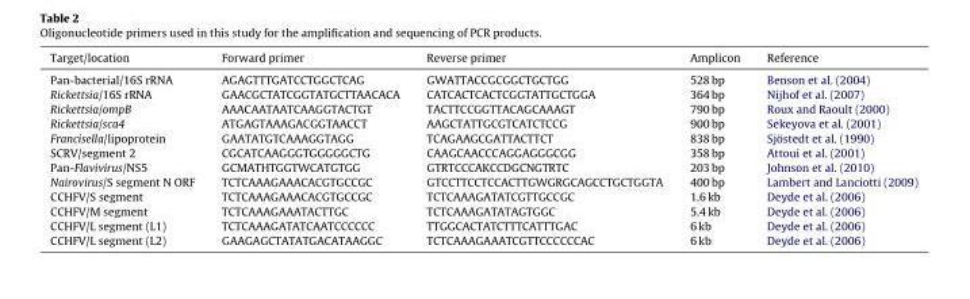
<table><thead><tr><td>Target/location</td><td>Forward primer</td><td>Reverse primer</td><td>Amplicon</td><td>Reference</td></tr></thead><tbody><tr><td>Pan-bacterial/16S rRNA</td><td>AGAGTTTGATCCTGGCTCAG</td><td>GWATTACCGCGGCTGCTGG</td><td>528 bp</td><td>Benson et al. (2004)</td></tr><tr><td>Rickettsia/16S rRNA</td><td>GAACGCTATCGGTATGCTTAACACA</td><td>CATCACTCACTCGGTATTGCTGGA</td><td>364 bp</td><td>Nijhof et al. (2007)</td></tr><tr><td>Rickettsia/ompB</td><td>AAACAATAATCAAGGTACTGT</td><td>TACTTCCGGTTACAGCAAAGT</td><td>790 bp</td><td>Roux and Raoult (2000)</td></tr><tr><td>Rickettsia/sca4</td><td>ATGAGTAAAGACGGTAACCT</td><td>AAGCTATTGCGTCATCTCCG</td><td>900 bp</td><td>Sekeyova et al. (2001)</td></tr><tr><td>Francisella/lipoprotein</td><td>GAATATGTCAAAGGTAGG</td><td>TCAGAAGCGATTACTTCT</td><td>838 bp</td><td>Sjöstedt et al. (1990)</td></tr><tr><td>SCRV/segment 2</td><td>CGCATCAAGGGTGGGGGCTG</td><td>CAAGCAACCCAGGAGGGCGG</td><td>358 bp</td><td>Attoui et al. (2001)</td></tr><tr><td>Pan-Flavivirus/NS5</td><td>GCMATHTGGTWCATGTGG</td><td>GTRTCCCAKCCDGCNGTRTC</td><td>203 bp</td><td>Johnson et al. (2010)</td></tr><tr><td>Nairovirus/S segment N ORF</td><td>TCTCAAAGAAACACGTGCCGC</td><td>GTCCTTCCTCCACTTGWGRGCAGCCTGCTGGTA</td><td>400 bp</td><td>Lambert and Lanciotti (2009)</td></tr><tr><td>CCHFV/S segment</td><td>TCTCAAAGAAACACGTGCCGC</td><td>TCTCAAAGATATCGTTGCCGC</td><td>1.6 kb</td><td>Deyde et al. (2006)</td></tr><tr><td>CCHFV/M segment</td><td>TCTCAAAGAAATACTTGC</td><td>TCTCAAAGATATAGTGGC</td><td>5.4 kb</td><td>Deyde et al. (2006)</td></tr><tr><td>CCHFV/L segment (L1)</td><td>TCTCAAAGATATCAATCCCCCC</td><td>TTGGCACTATCTTTCATTTGAC</td><td>6 kb</td><td>Deyde et al. (2006)</td></tr><tr><td>CCHFV/L segment (L2)</td><td>GAAGAGCTATATGACATAAGGC</td><td>TCTCAAAGAAATCGTTCCCCCCAC</td><td>6 kb</td><td>Deyde et al. (2006)</td></tr></tbody></table>